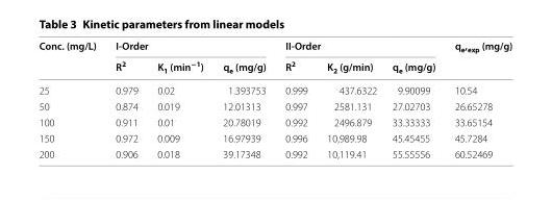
<table><thead><tr><td rowspan="2">Conc. (mg/L)</td><td colspan="3">I-Order</td><td colspan="3">II-Order</td><td rowspan="2">q<sub>e</sub>,<sub>exp</sub> (mg/g)</td></tr><tr><td>R<sup>2</sup></td><td>K<sub>1</sub> (min<sup>−1</sup>)</td><td>q<sub>e</sub> (mg/g)</td><td>R<sup>2</sup></td><td>K<sub>2</sub> (g/min)</td><td>q<sub>e</sub> (mg/g)</td></tr></thead><tbody><tr><td>25</td><td>0.979</td><td>0.02</td><td>1.393753</td><td>0.999</td><td>437.6322</td><td>9.90099</td><td>10.54</td></tr><tr><td>50</td><td>0.874</td><td>0.019</td><td>12.01313</td><td>0.997</td><td>2581.131</td><td>27.02703</td><td>26.65278</td></tr><tr><td>100</td><td>0.911</td><td>0.01</td><td>20.78019</td><td>0.992</td><td>2496.879</td><td>33.33333</td><td>33.65154</td></tr><tr><td>150</td><td>0.972</td><td>0.009</td><td>16.97939</td><td>0.996</td><td>10,989.98</td><td>45.45455</td><td>45.7284</td></tr><tr><td>200</td><td>0.906</td><td>0.018</td><td>39.17348</td><td>0.992</td><td>10,119.41</td><td>55.55556</td><td>60.52469</td></tr></tbody></table>